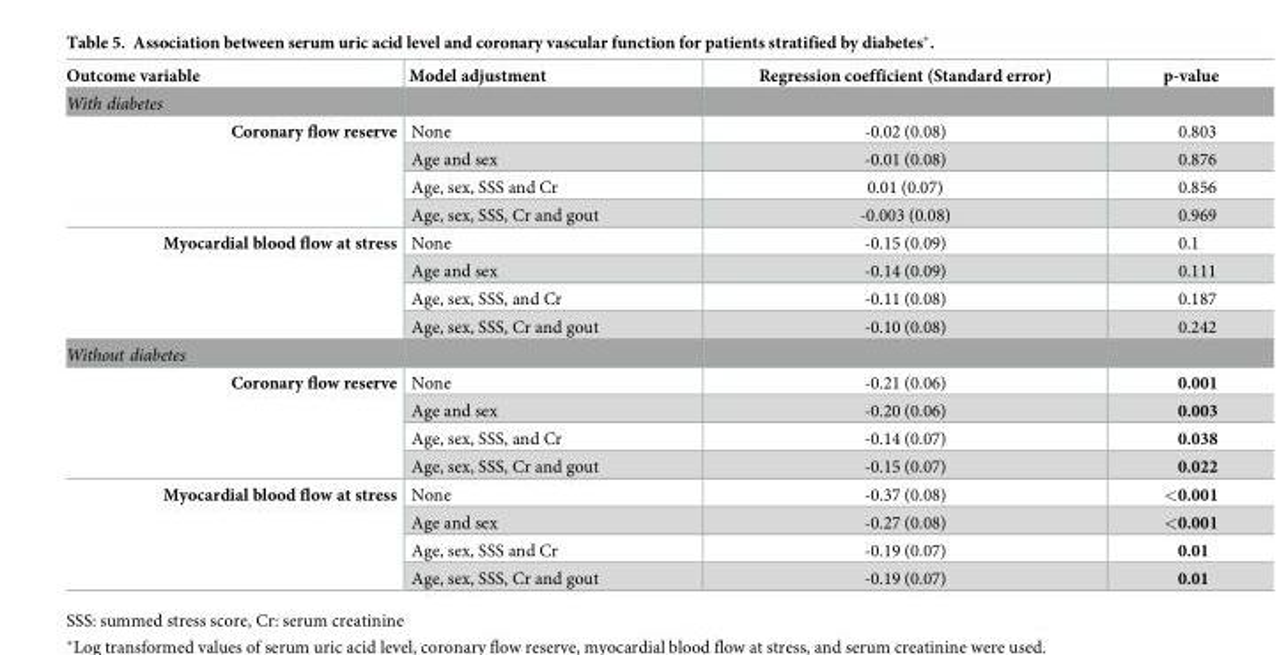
<table><thead><tr><td>Outcome variable</td><td>Model adjustment</td><td>Regression coefficient (Standard error)</td><td>p-value</td></tr></thead><tbody><tr><td colspan="4">With diabetes</td></tr><tr><td rowspan="4">Coronary flow reserve</td><td>None</td><td>-0.02 (0.08)</td><td>0.803</td></tr><tr><td>Age and sex</td><td>-0.01 (0.08)</td><td>0.876</td></tr><tr><td>Age, sex, SSS and Cr</td><td>0.01 (0.07)</td><td>0.856</td></tr><tr><td>Age, sex, SSS, Cr and gout</td><td>-0.003 (0.08)</td><td>0.969</td></tr><tr><td rowspan="4">Myocardial blood flow at stress</td><td>None</td><td>-0.15 (0.09)</td><td>0.1</td></tr><tr><td>Age and sex</td><td>-0.14 (0.09)</td><td>0.111</td></tr><tr><td>Age, sex, SSS, and Cr</td><td>-0.11 (0.08)</td><td>0.187</td></tr><tr><td>Age, sex, SSS, Cr and gout</td><td>-0.10 (0.08)</td><td>0.242</td></tr><tr><td colspan="4">Without diabetes</td></tr><tr><td rowspan="4">Coronary flow reserve</td><td>None</td><td>-0.21 (0.06)</td><td>0.001</td></tr><tr><td>Age and sex</td><td>-0.20 (0.06)</td><td>0.003</td></tr><tr><td>Age, sex, SSS, and Cr</td><td>-0.14 (0.07)</td><td>0.038</td></tr><tr><td>Age, sex, SSS, Cr and gout</td><td>-0.15 (0.07)</td><td>0.022</td></tr><tr><td rowspan="4">Myocardial blood flow at stress</td><td>None</td><td>-0.37 (0.08)</td><td>&lt;0.001</td></tr><tr><td>Age and sex</td><td>-0.27 (0.08)</td><td>&lt;0.001</td></tr><tr><td>Age, sex, SSS and Cr</td><td>-0.19 (0.07)</td><td>0.01</td></tr><tr><td>Age, sex, SSS, Cr and gout</td><td>-0.19 (0.07)</td><td>0.01</td></tr></tbody></table>